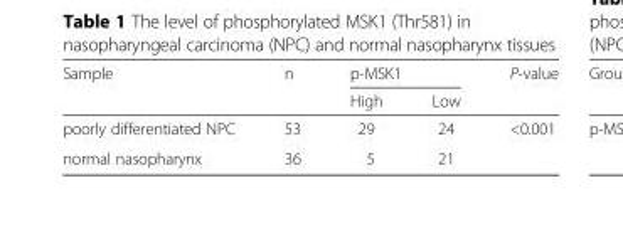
<table><thead><tr><td rowspan="2">Sample</td><td rowspan="2">n</td><td colspan="2">p-MSK1</td><td rowspan="2">P-value</td></tr><tr><td>High</td><td>Low</td></tr></thead><tbody><tr><td>poorly differentiated NPC</td><td>53</td><td>29</td><td>24</td><td>&lt;0.001</td></tr><tr><td>normal nasopharynx</td><td>36</td><td>5</td><td>21</td><td></td></tr></tbody></table>